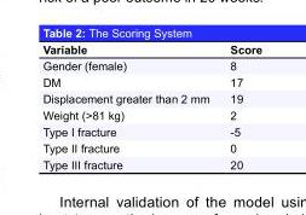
<table><thead><tr><td>Variable</td><td>Score</td></tr></thead><tbody><tr><td>Gender (female)</td><td>8</td></tr><tr><td>DM</td><td>17</td></tr><tr><td>Displacement greater than 2 mm</td><td>19</td></tr><tr><td>Weight (&gt;81 kg)</td><td>2</td></tr><tr><td>Type I fracture</td><td>-5</td></tr><tr><td>Type II fracture</td><td>0</td></tr><tr><td>Type III fracture</td><td>20</td></tr></tbody></table>